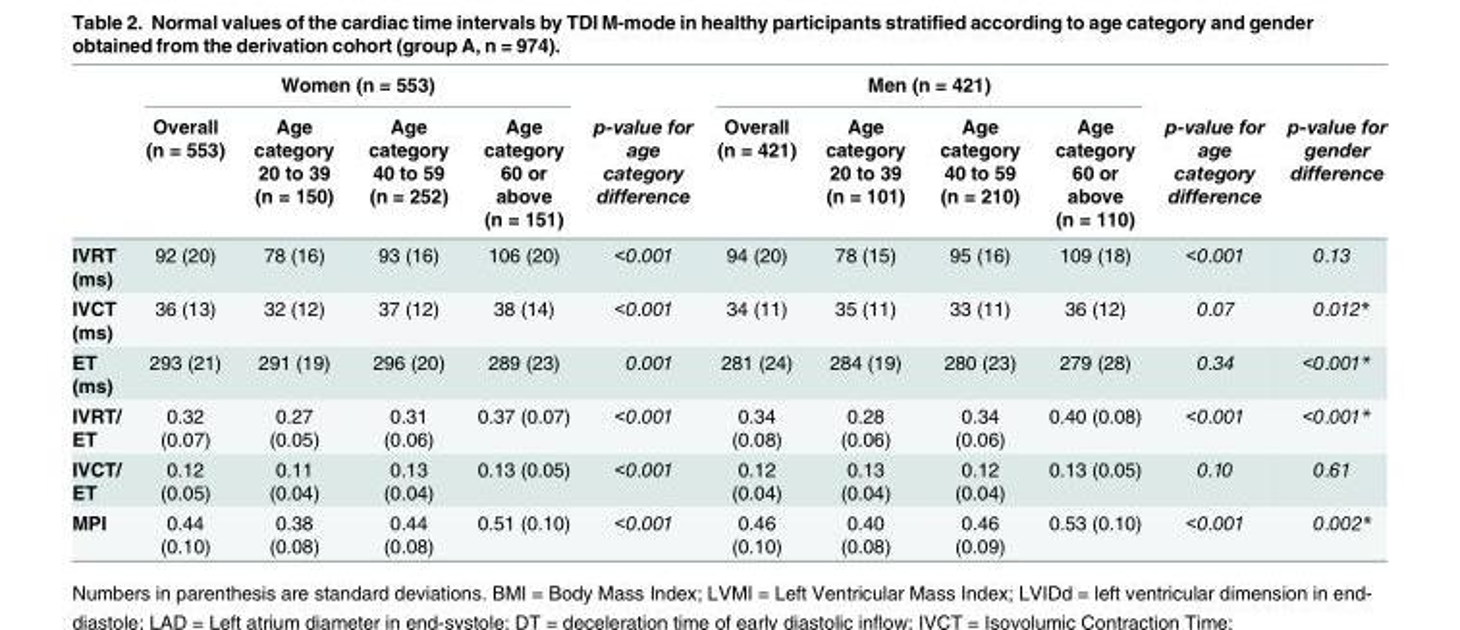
<table><thead><tr><td rowspan="2"></td><td colspan="4">Women (n = 553)</td><td rowspan="2">p-value for age category difference</td><td colspan="4">Men (n = 421)</td><td rowspan="2">p-value for age category difference</td><td rowspan="2">p-value for gender difference</td></tr><tr><td>Overall (n = 553)</td><td>Age category 20 to 39 (n = 150)</td><td>Age category 40 to 59 (n = 252)</td><td>Age category 60 or above (n = 151)</td><td>Overall (n = 421)</td><td>Age category 20 to 39 (n = 101)</td><td>Age category 40 to 59 (n = 210)</td><td>Age category 60 or above (n = 110)</td></tr></thead><tbody><tr><td>IVRT (ms)</td><td>92 (20)</td><td>78 (16)</td><td>93 (16)</td><td>106 (20)</td><td>&lt;0.001</td><td>94 (20)</td><td>78 (15)</td><td>95 (16)</td><td>109 (18)</td><td>&lt;0.001</td><td>0.13</td></tr><tr><td>IVCT (ms)</td><td>36 (13)</td><td>32 (12)</td><td>37 (12)</td><td>38 (14)</td><td>&lt;0.001</td><td>34 (11)</td><td>35 (11)</td><td>33 (11)</td><td>36 (12)</td><td>0.07</td><td>0.012*</td></tr><tr><td>ET (ms)</td><td>293 (21)</td><td>291 (19)</td><td>296 (20)</td><td>289 (23)</td><td>0.001</td><td>281 (24)</td><td>284 (19)</td><td>280 (23)</td><td>279 (28)</td><td>0.34</td><td>&lt;0.001*</td></tr><tr><td>IVRT/ ET</td><td>0.32 (0.07)</td><td>0.27 (0.05)</td><td>0.31 (0.06)</td><td>0.37 (0.07)</td><td>&lt;0.001</td><td>0.34 (0.08)</td><td>0.28 (0.06)</td><td>0.34 (0.06)</td><td>0.40 (0.08)</td><td>&lt;0.001</td><td>&lt;0.001*</td></tr><tr><td>IVCT/ ET</td><td>0.12 (0.05)</td><td>0.11 (0.04)</td><td>0.13 (0.04)</td><td>0.13 (0.05)</td><td>&lt;0.001</td><td>0.12 (0.04)</td><td>0.13 (0.04)</td><td>0.12 (0.04)</td><td>0.13 (0.05)</td><td>0.10</td><td>0.61</td></tr><tr><td>MPI</td><td>0.44 (0.10)</td><td>0.38 (0.08)</td><td>0.44 (0.08)</td><td>0.51 (0.10)</td><td>&lt;0.001</td><td>0.46 (0.10)</td><td>0.40 (0.08)</td><td>0.46 (0.09)</td><td>0.53 (0.10)</td><td>&lt;0.001</td><td>0.002*</td></tr></tbody></table>